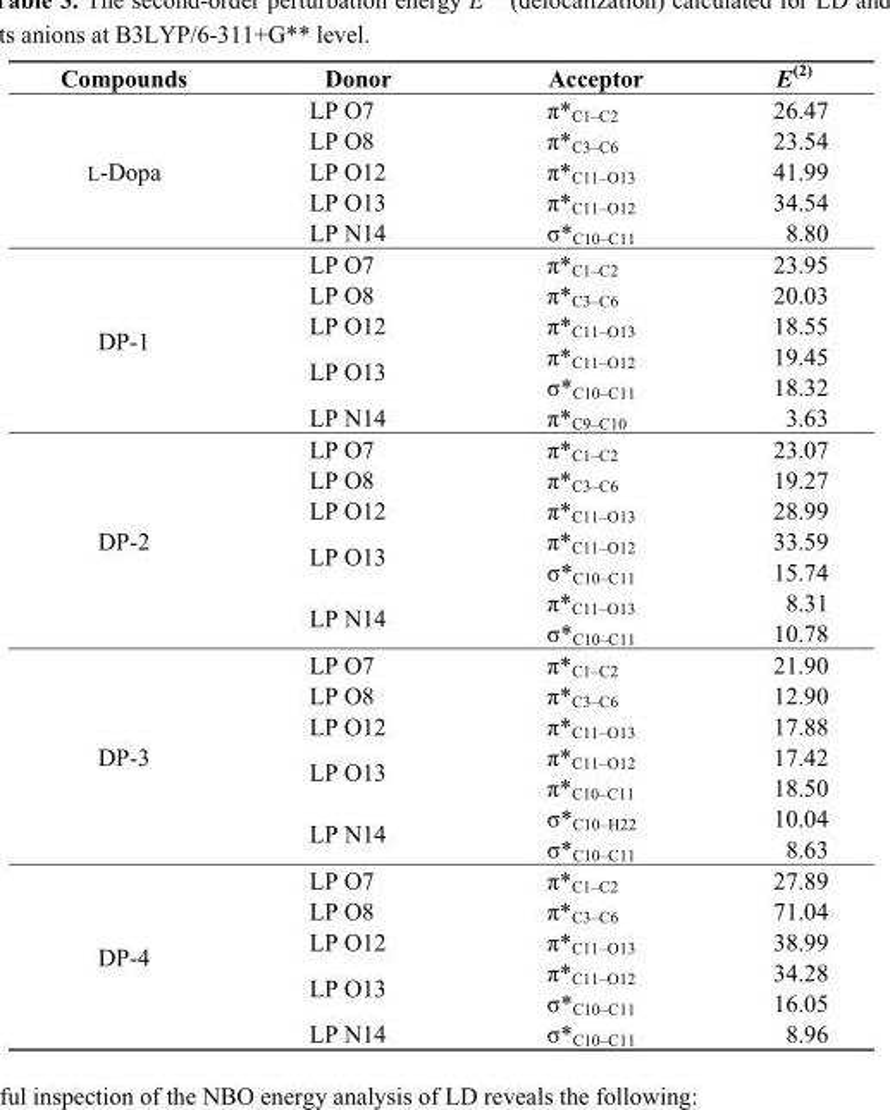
<table><thead><tr><td>Compounds</td><td>Donor</td><td>Acceptor</td><td>E<sup>(2)</sup></td></tr></thead><tbody><tr><td rowspan="5">L-Dopa</td><td>LP O7</td><td>π*<sub>C1–C2</sub></td><td>26.47</td></tr><tr><td>LP O8</td><td>π*<sub>C3–C6</sub></td><td>23.54</td></tr><tr><td>LP O12</td><td>π*<sub>C11–O13</sub></td><td>41.99</td></tr><tr><td>LP O13</td><td>π*<sub>C11–O12</sub></td><td>34.54</td></tr><tr><td>LP N14</td><td>σ*<sub>C10–C11</sub></td><td>8.80</td></tr><tr><td rowspan="6">DP-1</td><td>LP O7</td><td>π*<sub>C1–C2</sub></td><td>23.95</td></tr><tr><td>LP O8</td><td>π*<sub>C3–C6</sub></td><td>20.03</td></tr><tr><td>LP O12</td><td>π*<sub>C11–O13</sub></td><td>18.55</td></tr><tr><td rowspan="2">LP O13</td><td>π*<sub>C11–O12</sub></td><td>19.45</td></tr><tr><td>σ*<sub>C10–C11</sub></td><td>18.32</td></tr><tr><td>LP N14</td><td>π*<sub>C9–C10</sub></td><td>3.63</td></tr><tr><td rowspan="7">DP-2</td><td>LP O7</td><td>π*<sub>C1–C2</sub></td><td>23.07</td></tr><tr><td>LP O8</td><td>π*<sub>C3–C6</sub></td><td>19.27</td></tr><tr><td>LP O12</td><td>π*<sub>C11–O13</sub></td><td>28.99</td></tr><tr><td rowspan="2">LP O13</td><td>π*<sub>C11–O12</sub></td><td>33.59</td></tr><tr><td>σ*<sub>C10–C11</sub></td><td>15.74</td></tr><tr><td rowspan="2">LP N14</td><td>π*<sub>C11–O13</sub></td><td>8.31</td></tr><tr><td>σ*<sub>C10–C11</sub></td><td>10.78</td></tr><tr><td rowspan="7">DP-3</td><td>LP O7</td><td>π*<sub>C1–C2</sub></td><td>21.90</td></tr><tr><td>LP O8</td><td>π*<sub>C3–C6</sub></td><td>12.90</td></tr><tr><td>LP O12</td><td>π*<sub>C11–O13</sub></td><td>17.88</td></tr><tr><td rowspan="2">LP O13</td><td>π*<sub>C11–O12</sub></td><td>17.42</td></tr><tr><td>π*<sub>C10–C11</sub></td><td>18.50</td></tr><tr><td rowspan="2">LP N14</td><td>σ*<sub>C10–H22</sub></td><td>10.04</td></tr><tr><td>σ*<sub>C10–C11</sub></td><td>8.63</td></tr><tr><td rowspan="6">DP-4</td><td>LP O7</td><td>π*<sub>C1–C2</sub></td><td>27.89</td></tr><tr><td>LP O8</td><td>π*<sub>C3–C6</sub></td><td>71.04</td></tr><tr><td>LP O12</td><td>π*<sub>C11–O13</sub></td><td>38.99</td></tr><tr><td rowspan="2">LP O13</td><td>π*<sub>C11–O12</sub></td><td>34.28</td></tr><tr><td>σ*<sub>C10–C11</sub></td><td>16.05</td></tr><tr><td>LP N14</td><td>σ*<sub>C10–C11</sub></td><td>8.96</td></tr></tbody></table>